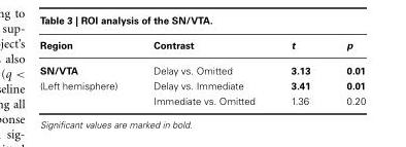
<table><thead><tr><td>Region</td><td>Contrast</td><td>t</td><td>p</td></tr></thead><tbody><tr><td>SN/VTA</td><td>Delay vs. Omitted</td><td>3.13</td><td>0.01</td></tr><tr><td rowspan="2">(Left hemisphere)</td><td>Delay vs. Immediate</td><td>3.41</td><td>0.01</td></tr><tr><td>Immediate vs. Omitted</td><td>1.36</td><td>0.20</td></tr></tbody></table>